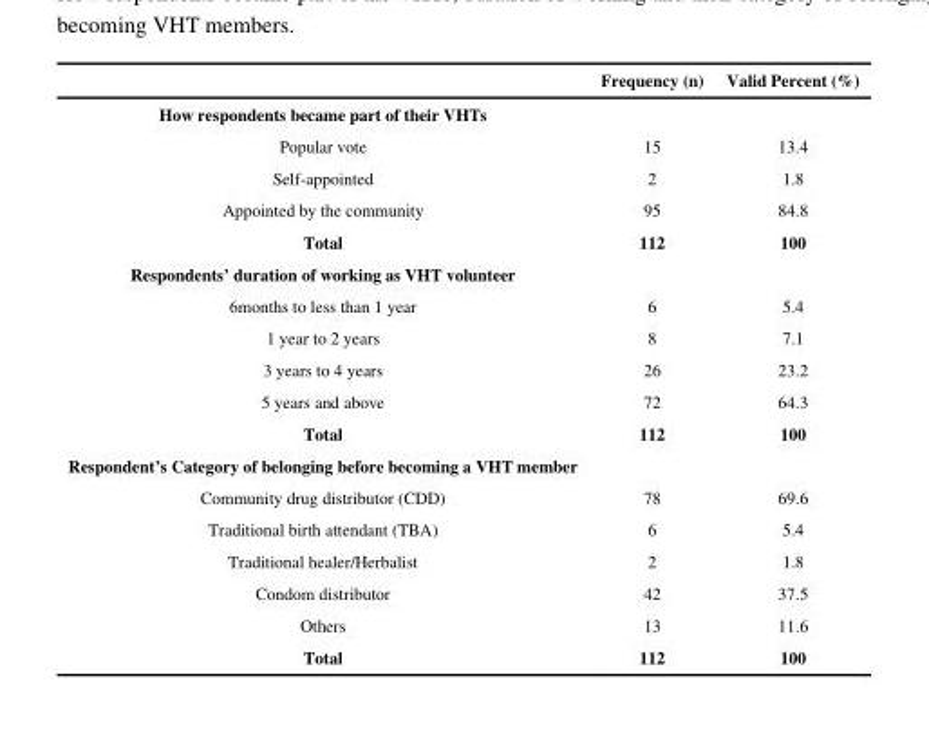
<table><thead><tr><td></td><td>Frequency (n)</td><td>Valid Percent (%)</td></tr></thead><tbody><tr><td colspan="3">How respondents became part of their VHTs</td></tr><tr><td>Popular vote</td><td>15</td><td>13.4</td></tr><tr><td>Self-appointed</td><td>2</td><td>1.8</td></tr><tr><td>Appointed by the community</td><td>95</td><td>84.8</td></tr><tr><td>Total</td><td>112</td><td>100</td></tr><tr><td colspan="3">Respondents’ duration of working as VHT volunteer</td></tr><tr><td>6months to less than 1 year</td><td>6</td><td>5.4</td></tr><tr><td>1 year to 2 years</td><td>8</td><td>7.1</td></tr><tr><td>3 years to 4 years</td><td>26</td><td>23.2</td></tr><tr><td>5 years and above</td><td>72</td><td>64.3</td></tr><tr><td>Total</td><td>112</td><td>100</td></tr><tr><td colspan="3">Respondent’s Category of belonging before becoming a VHT member</td></tr><tr><td>Community drug distributor (CDD)</td><td>78</td><td>69.6</td></tr><tr><td>Traditional birth attendant (TBA)</td><td>6</td><td>5.4</td></tr><tr><td>Traditional healer/Herbalist</td><td>2</td><td>1.8</td></tr><tr><td>Condom distributor</td><td>42</td><td>37.5</td></tr><tr><td>Others</td><td>13</td><td>11.6</td></tr><tr><td>Total</td><td>112</td><td>100</td></tr></tbody></table>